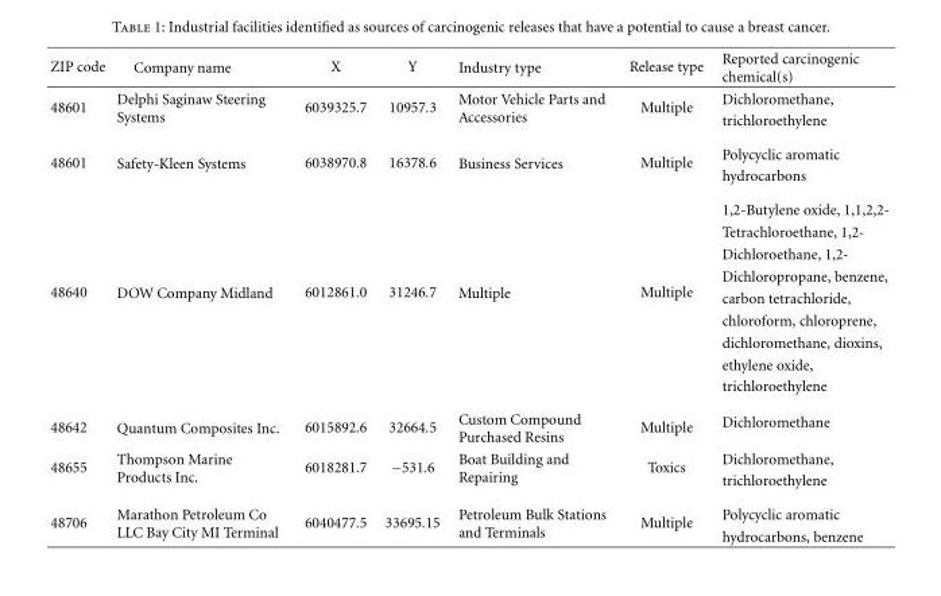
<table><thead><tr><td>ZIP code</td><td>Company name</td><td>X</td><td>Y</td><td>Industry type</td><td>Release type</td><td>Reported carcinogenic chemical(s)</td></tr></thead><tbody><tr><td rowspan="2">48601</td><td rowspan="2">Delphi Saginaw Steering Systems</td><td rowspan="2">6039325.7</td><td rowspan="2">10957.3</td><td rowspan="2">Motor Vehicle Parts and Accessories</td><td rowspan="2">Multiple</td><td>Dichloromethane,</td></tr><tr><td>trichloroethylene</td></tr><tr><td rowspan="2">48601</td><td rowspan="2">Safety-Kleen Systems</td><td rowspan="2">6038970.8</td><td rowspan="2">16378.6</td><td rowspan="2">Business Services</td><td rowspan="2">Multiple</td><td>Polycyclic aromatic</td></tr><tr><td>hydrocarbons</td></tr><tr><td rowspan="9">48640</td><td rowspan="9">DOW Company Midland</td><td rowspan="9">6012861.0</td><td rowspan="9">31246.7</td><td rowspan="9">Multiple</td><td rowspan="9">Multiple</td><td>1,2-Butylene oxide, 1,1,2,2-</td></tr><tr><td>Tetrachloroethane, 1,2-</td></tr><tr><td>Dichloroethane, 1,2-</td></tr><tr><td>Dichloropropane, benzene,</td></tr><tr><td>carbon tetrachloride,</td></tr><tr><td>chloroform, chloroprene,</td></tr><tr><td>dichloromethane, dioxins,</td></tr><tr><td>ethylene oxide,</td></tr><tr><td>trichloroethylene</td></tr><tr><td>48642</td><td>Quantum Composites Inc.</td><td>6015892.6</td><td>32664.5</td><td>Custom Compound Purchased Resins</td><td>Multiple</td><td>Dichloromethane</td></tr><tr><td rowspan="2">48655</td><td rowspan="2">Thompson Marine Products Inc.</td><td rowspan="2">6018281.7</td><td rowspan="2">−531.6</td><td rowspan="2">Boat Building and Repairing</td><td rowspan="2">Toxics</td><td>Dichloromethane,</td></tr><tr><td>trichloroethylene</td></tr><tr><td rowspan="2">48706</td><td rowspan="2">Marathon Petroleum Co LLC Bay City MI Terminal</td><td rowspan="2">6040477.5</td><td rowspan="2">33695.15</td><td rowspan="2">Petroleum Bulk Stations and Terminals</td><td rowspan="2">Multiple</td><td>Polycyclic aromatic</td></tr><tr><td>hydrocarbons, benzene</td></tr></tbody></table>